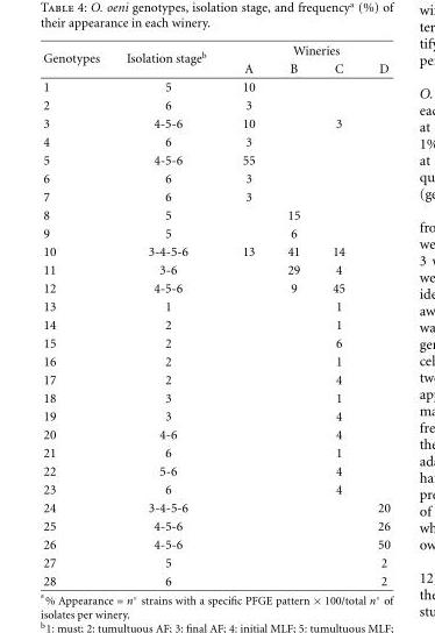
<table><thead><tr><td rowspan="2">Genotypes</td><td rowspan="2">Isolation stage<sup>b</sup></td><td colspan="4">Wineries</td></tr><tr><td>A</td><td>B</td><td>C</td><td>D</td></tr></thead><tbody><tr><td>1</td><td>5</td><td>10</td><td></td><td></td><td></td></tr><tr><td>2</td><td>6</td><td>3</td><td></td><td></td><td></td></tr><tr><td>3</td><td>4-5-6</td><td>10</td><td></td><td>3</td><td></td></tr><tr><td>4</td><td>6</td><td>3</td><td></td><td></td><td></td></tr><tr><td>5</td><td>4-5-6</td><td>55</td><td></td><td></td><td></td></tr><tr><td>6</td><td>6</td><td>3</td><td></td><td></td><td></td></tr><tr><td>7</td><td>6</td><td>3</td><td></td><td></td><td></td></tr><tr><td>8</td><td>5</td><td></td><td>15</td><td></td><td></td></tr><tr><td>9</td><td>5</td><td></td><td>6</td><td></td><td></td></tr><tr><td>10</td><td>3-4-5-6</td><td>13</td><td>41</td><td>14</td><td></td></tr><tr><td>11</td><td>3-6</td><td></td><td>29</td><td>4</td><td></td></tr><tr><td>12</td><td>4-5-6</td><td></td><td>9</td><td>45</td><td></td></tr><tr><td>13</td><td>1</td><td></td><td></td><td>1</td><td></td></tr><tr><td>14</td><td>2</td><td></td><td></td><td>1</td><td></td></tr><tr><td>15</td><td>2</td><td></td><td></td><td>6</td><td></td></tr><tr><td>16</td><td>2</td><td></td><td></td><td>1</td><td></td></tr><tr><td>17</td><td>2</td><td></td><td></td><td>4</td><td></td></tr><tr><td>18</td><td>3</td><td></td><td></td><td>1</td><td></td></tr><tr><td>19</td><td>3</td><td></td><td></td><td>4</td><td></td></tr><tr><td>20</td><td>4-6</td><td></td><td></td><td>4</td><td></td></tr><tr><td>21</td><td>6</td><td></td><td></td><td>1</td><td></td></tr><tr><td>22</td><td>5-6</td><td></td><td></td><td>4</td><td></td></tr><tr><td>23</td><td>6</td><td></td><td></td><td>4</td><td></td></tr><tr><td>24</td><td>3-4-5-6</td><td></td><td></td><td></td><td>20</td></tr><tr><td>25</td><td>4-5-6</td><td></td><td></td><td></td><td>26</td></tr><tr><td>26</td><td>4-5-6</td><td></td><td></td><td></td><td>50</td></tr><tr><td>27</td><td>5</td><td></td><td></td><td></td><td>2</td></tr><tr><td>28</td><td>6</td><td></td><td></td><td></td><td>2</td></tr></tbody></table>